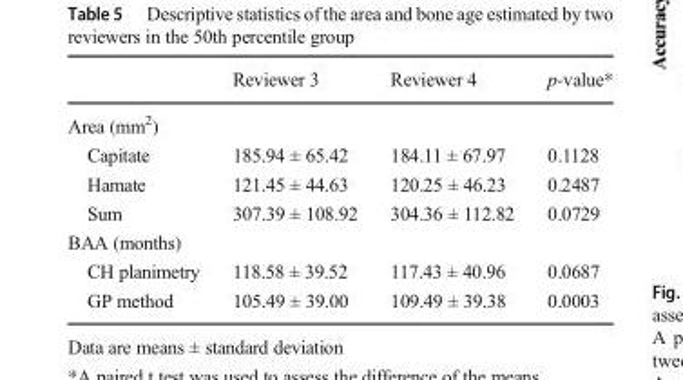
<table><thead><tr><td></td><td>Reviewer 3</td><td>Reviewer 4</td><td>p-value*</td></tr></thead><tbody><tr><td colspan="4">Area (mm<sup>2</sup>)</td></tr><tr><td>Capitate</td><td>185.94 ± 65.42</td><td>184.11 ± 67.97</td><td>0.1128</td></tr><tr><td>Hamate</td><td>121.45 ± 44.63</td><td>120.25 ± 46.23</td><td>0.2487</td></tr><tr><td>Sum</td><td>307.39 ± 108.92</td><td>304.36 ± 112.82</td><td>0.0729</td></tr><tr><td colspan="4">BAA (months)</td></tr><tr><td>CH planimetry</td><td>118.58 ± 39.52</td><td>117.43 ± 40.96</td><td>0.0687</td></tr><tr><td>GP method</td><td>105.49 ± 39.00</td><td>109.49 ± 39.38</td><td>0.0003</td></tr></tbody></table>